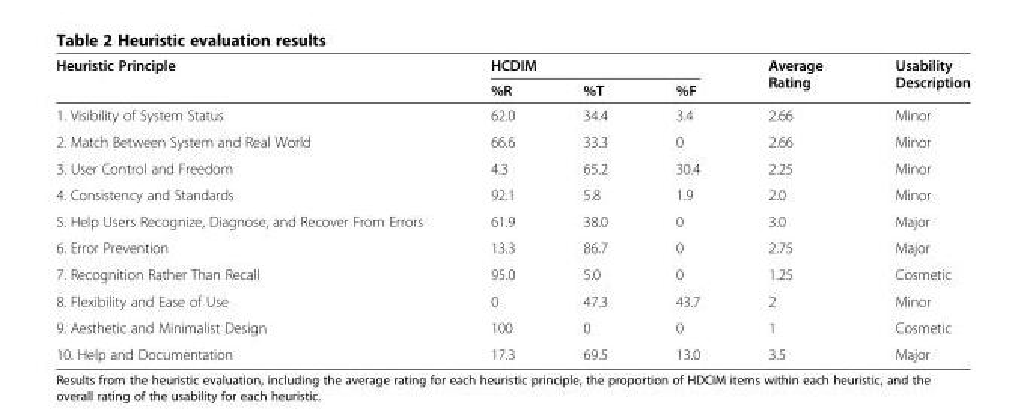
<table><thead><tr><td rowspan="2">Heuristic Principle</td><td colspan="3">HCDIM</td><td rowspan="2">Average Rating</td><td rowspan="2">Usability Description</td></tr><tr><td>%R</td><td>%T</td><td>%F</td></tr></thead><tbody><tr><td>1. Visibility of System Status</td><td>62.0</td><td>34.4</td><td>3.4</td><td>2.66</td><td>Minor</td></tr><tr><td>2. Match Between System and Real World</td><td>66.6</td><td>33.3</td><td>0</td><td>2.66</td><td>Minor</td></tr><tr><td>3. User Control and Freedom</td><td>4.3</td><td>65.2</td><td>30.4</td><td>2.25</td><td>Minor</td></tr><tr><td>4. Consistency and Standards</td><td>92.1</td><td>5.8</td><td>1.9</td><td>2.0</td><td>Minor</td></tr><tr><td>5. Help Users Recognize, Diagnose, and Recover From Errors</td><td>61.9</td><td>38.0</td><td>0</td><td>3.0</td><td>Major</td></tr><tr><td>6. Error Prevention</td><td>13.3</td><td>86.7</td><td>0</td><td>2.75</td><td>Major</td></tr><tr><td>7. Recognition Rather Than Recall</td><td>95.0</td><td>5.0</td><td>0</td><td>1.25</td><td>Cosmetic</td></tr><tr><td>8. Flexibility and Ease of Use</td><td>0</td><td>47.3</td><td>43.7</td><td>2</td><td>Minor</td></tr><tr><td>9. Aesthetic and Minimalist Design</td><td>100</td><td>0</td><td>0</td><td>1</td><td>Cosmetic</td></tr><tr><td>10. Help and Documentation</td><td>17.3</td><td>69.5</td><td>13.0</td><td>3.5</td><td>Major</td></tr></tbody></table>